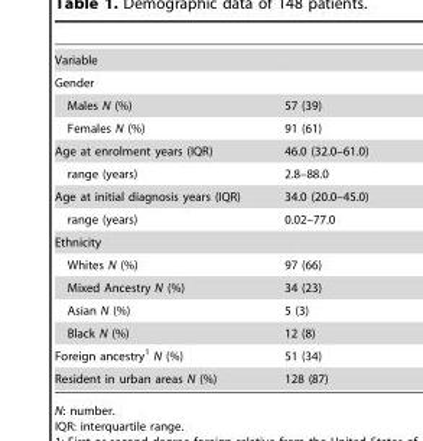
<table><tbody><tr><td colspan="2">Variable</td></tr><tr><td colspan="2">Gender</td></tr><tr><td>Males N (%)</td><td>57 (39)</td></tr><tr><td>Females N (%)</td><td>91 (61)</td></tr><tr><td>Age at enrolment years (IQR)</td><td>46.0 (32.0–61.0)</td></tr><tr><td>range (years)</td><td>2.8–88.0</td></tr><tr><td>Age at initial diagnosis years (IQR)</td><td>34.0 (20.0–45.0)</td></tr><tr><td>range (years)</td><td>0.02–77.0</td></tr><tr><td colspan="2">Ethnicity</td></tr><tr><td>Whites N (%)</td><td>97 (66)</td></tr><tr><td>Mixed Ancestry N (%)</td><td>34 (23)</td></tr><tr><td>Asian N (%)</td><td>5 (3)</td></tr><tr><td>Black N (%)</td><td>12 (8)</td></tr><tr><td>Foreign ancestry<sup>1</sup> N (%)</td><td>51 (34)</td></tr><tr><td>Resident in urban areas N (%)</td><td>128 (87)</td></tr></tbody></table>